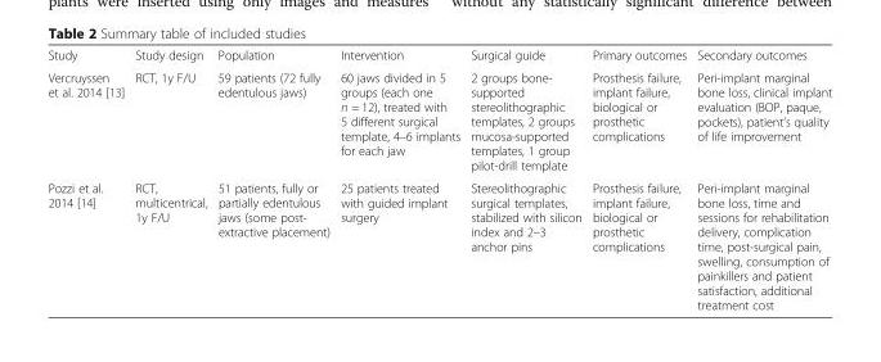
<table><tbody><tr><td>Study</td><td>Study design</td><td>Population</td><td>Intervention</td><td>Surgical guide</td><td>Primary outcomes</td><td>Secondary outcomes</td></tr><tr><td>Vercruyssen et al. 2014 [13]</td><td>RCT, 1y F/U</td><td>59 patients (72 fully edentulous jaws)</td><td>60 jaws divided in 5 groups (each one n = 12), treated with 5 different surgical template, 4–6 implants for each jaw</td><td>2 groups bone- supported stereolithographic templates, 2 groups mucosa-supported templates, 1 group pilot-drill template</td><td>Prosthesis failure, implant failure, biological or prosthetic complications</td><td>Peri-implant marginal bone loss, clinical implant evaluation (BOP, paque, pockets), patient’s quality of life improvement</td></tr><tr><td>Pozzi et al. 2014 [14]</td><td>RCT, multicentrical, 1y F/U</td><td>51 patients, fully or partially edentulous jaws (some post- extractive placement)</td><td>25 patients treated with guided implant surgery</td><td>Stereolithographic surgical templates, stabilized with silicon index and 2–3 anchor pins</td><td>Prosthesis failure, implant failure, biological or prosthetic complications</td><td>Peri-implant marginal bone loss, time and sessions for rehabilitation delivery, complication time, post-surgical pain, swelling, consumption of painkillers and patient satisfaction, additional treatment cost</td></tr></tbody></table>